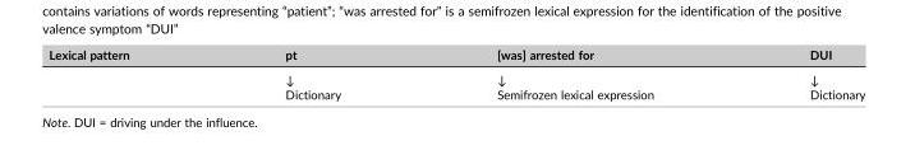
<table><thead><tr><td>Lexical pattern</td><td>pt</td><td>[was] arrested for</td><td>DUI</td></tr></thead><tbody><tr><td></td><td>↓ Dictionary</td><td>↓ Semifrozen lexical expression</td><td>↓ Dictionary</td></tr></tbody></table>